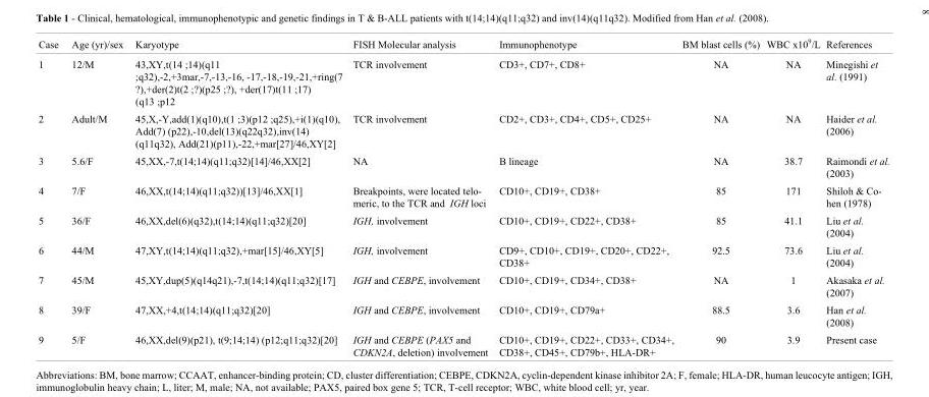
<table><thead><tr><td>Case</td><td>Age (yr)/sex</td><td>Karyotype</td><td>FISH Molecular analysis</td><td>Immunophenotype</td><td>BM blast cells (%)</td><td>WBC x109/L</td><td>References</td></tr></thead><tbody><tr><td>1</td><td>12/M</td><td>43,XY,t(14 ;14)(q11 ;q32),-2,+3mar,-7,-13,-16, -17,-18,-19,-21,+ring(7 ?),+der(2)t(2 ;?)(p25 ;?), +der(17)t(11 ;17) (q13 ;p12</td><td>TCR involvement</td><td>CD3+, CD7+, CD8+</td><td>NA</td><td>NA</td><td>Minegishi et al. (1991)</td></tr><tr><td>2</td><td>Adult/M</td><td>45,X,-Y,add(1)(q10),t(1 ;3)(p12 ;q25),+i(1)(q10), Add(7) (p22),-10,del(13)(q22q32),inv(14) (q11q32), Add(21)(p11),-22,+mar[27]/46,XY[2]</td><td>TCR involvement</td><td>CD2+, CD3+, CD4+, CD5+, CD25+</td><td>NA</td><td>NA</td><td>Haider et al. (2006)</td></tr><tr><td>3</td><td>5.6/F</td><td>45,XX,-7,t(14;14)(q11;q32)[14]/46,XX[2]</td><td>NA</td><td>B lineage</td><td>NA</td><td>38.7</td><td>Raimondi et al. (2003)</td></tr><tr><td>4</td><td>7/F</td><td>46,XX,t(14;14)(q11;q32))[13]/46,XX[1]</td><td>Breakpoints, were located telo- meric, to the TCR and IGH loci</td><td>CD10+, CD19+, CD38+</td><td>85</td><td>171</td><td>Shiloh &amp; Co- hen (1978)</td></tr><tr><td>5</td><td>36/F</td><td>46,XX,del(6)(q32),t(14;14)(q11;q32)[20]</td><td>IGH, involvement</td><td>CD10+, CD19+, CD22+, CD38+</td><td>85</td><td>41.1</td><td>Liu et al. (2004)</td></tr><tr><td>6</td><td>44/M</td><td>47,XY,t(14;14)(q11;q32),+mar[15]/46,XY[5]</td><td>IGH, involvement</td><td>CD9+, CD10+, CD19+, CD20+, CD22+, CD38+</td><td>92.5</td><td>73.6</td><td>Liu et al. (2004)</td></tr><tr><td>7</td><td>45/M</td><td>45,XY,dup(5)(q14q21),-7,t(14;14)(q11;q32)[17]</td><td>IGH and CEBPE, involvement</td><td>CD10+, CD19+, CD34+, CD38+</td><td>NA</td><td>1</td><td>Akasaka et al. (2007)</td></tr><tr><td>8</td><td>39/F</td><td>47,XX,+4,t(14;14)(q11;q32)[20]</td><td>IGH and CEBPE, involvement</td><td>CD10+, CD19+, CD79a+</td><td>88.5</td><td>3.6</td><td>Han et al. (2008)</td></tr><tr><td>9</td><td>5/F</td><td>46,XX,del(9)(p21), t(9;14;14) (p12;q11;q32)[20]</td><td>IGH and CEBPE (PAX5 and CDKN2A, deletion) involvement</td><td>CD10+, CD19+, CD22+, CD33+, CD34+, CD38+, CD45+, CD79b+, HLA-DR+</td><td>90</td><td>3.9</td><td>Present case</td></tr></tbody></table>